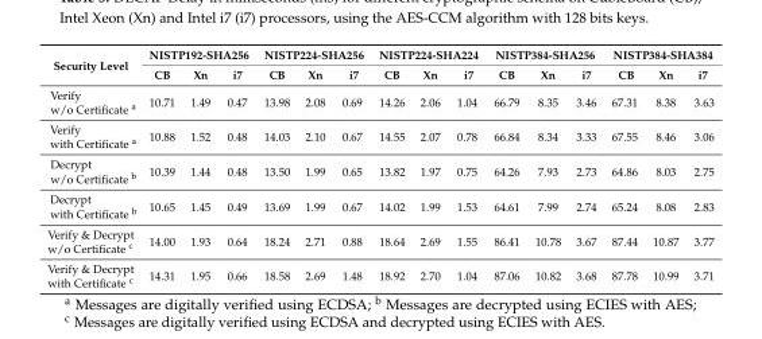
<table><thead><tr><td rowspan="2">Security Level</td><td colspan="3">NISTP192-SHA256</td><td colspan="3">NISTP224-SHA256</td><td colspan="3">NISTP224-SHA224</td><td colspan="3">NISTP384-SHA256</td><td colspan="3">NISTP384-SHA384</td></tr><tr><td>CB</td><td>Xn</td><td>i7</td><td>CB</td><td>Xn</td><td>i7</td><td>CB</td><td>Xn</td><td>i7</td><td>CB</td><td>Xn</td><td>i7</td><td>CB</td><td>Xn</td><td>i7</td></tr></thead><tbody><tr><td>Verify w/o Certificate <sup>a</sup></td><td>10.71</td><td>1.49</td><td>0.47</td><td>13.98</td><td>2.08</td><td>0.69</td><td>14.26</td><td>2.06</td><td>1.04</td><td>66.79</td><td>8.35</td><td>3.46</td><td>67.31</td><td>8.38</td><td>3.63</td></tr><tr><td>Verify with Certificate <sup>a</sup></td><td>10.88</td><td>1.52</td><td>0.48</td><td>14.03</td><td>2.10</td><td>0.67</td><td>14.55</td><td>2.07</td><td>0.78</td><td>66.84</td><td>8.34</td><td>3.33</td><td>67.55</td><td>8.46</td><td>3.06</td></tr><tr><td>Decrypt w/o Certificate <sup>b</sup></td><td>10.39</td><td>1.44</td><td>0.48</td><td>13.50</td><td>1.99</td><td>0.65</td><td>13.82</td><td>1.97</td><td>0.75</td><td>64.26</td><td>7.93</td><td>2.73</td><td>64.86</td><td>8.03</td><td>2.75</td></tr><tr><td>Decrypt with Certificate <sup>b</sup></td><td>10.65</td><td>1.45</td><td>0.49</td><td>13.69</td><td>1.99</td><td>0.67</td><td>14.02</td><td>1.99</td><td>1.53</td><td>64.61</td><td>7.99</td><td>2.74</td><td>65.24</td><td>8.08</td><td>2.83</td></tr><tr><td>Verify &amp; Decrypt w/o Certificate <sup>c</sup></td><td>14.00</td><td>1.93</td><td>0.64</td><td>18.24</td><td>2.71</td><td>0.88</td><td>18.64</td><td>2.69</td><td>1.55</td><td>86.41</td><td>10.78</td><td>3.67</td><td>87.44</td><td>10.87</td><td>3.77</td></tr><tr><td>Verify &amp; Decrypt with Certificate <sup>c</sup></td><td>14.31</td><td>1.95</td><td>0.66</td><td>18.58</td><td>2.69</td><td>1.48</td><td>18.92</td><td>2.70</td><td>1.04</td><td>87.06</td><td>10.82</td><td>3.68</td><td>87.78</td><td>10.99</td><td>3.71</td></tr></tbody></table>